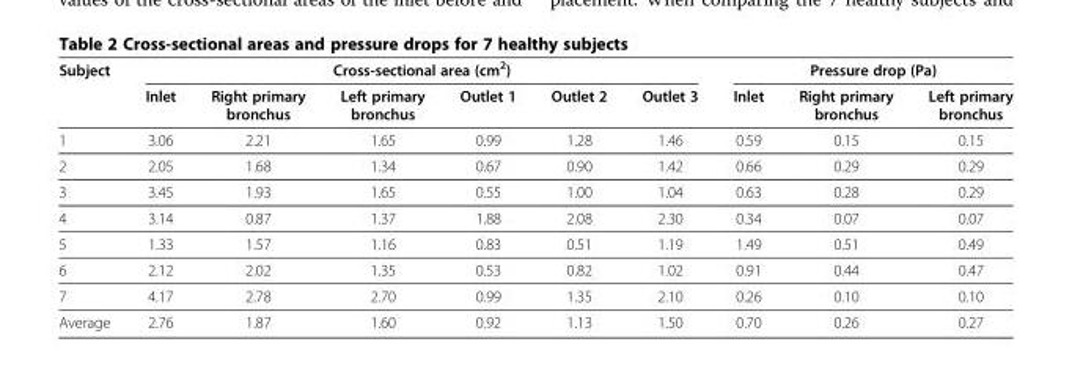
<table><thead><tr><td rowspan="2">Subject</td><td colspan="6">Cross-sectional area (cm<sup>2</sup>)</td><td colspan="3">Pressure drop (Pa)</td></tr><tr><td>Inlet</td><td>Right primary bronchus</td><td>Left primary bronchus</td><td>Outlet 1</td><td>Outlet 2</td><td>Outlet 3</td><td>Inlet</td><td>Right primary bronchus</td><td>Left primary bronchus</td></tr></thead><tbody><tr><td>1</td><td>3.06</td><td>2.21</td><td>1.65</td><td>0.99</td><td>1.28</td><td>1.46</td><td>0.59</td><td>0.15</td><td>0.15</td></tr><tr><td>2</td><td>2.05</td><td>1.68</td><td>1.34</td><td>0.67</td><td>0.90</td><td>1.42</td><td>0.66</td><td>0.29</td><td>0.29</td></tr><tr><td>3</td><td>3.45</td><td>1.93</td><td>1.65</td><td>0.55</td><td>1.00</td><td>1.04</td><td>0.63</td><td>0.28</td><td>0.29</td></tr><tr><td>4</td><td>3.14</td><td>0.87</td><td>1.37</td><td>1.88</td><td>2.08</td><td>2.30</td><td>0.34</td><td>0.07</td><td>0.07</td></tr><tr><td>5</td><td>1.33</td><td>1.57</td><td>1.16</td><td>0.83</td><td>0.51</td><td>1.19</td><td>1.49</td><td>0.51</td><td>0.49</td></tr><tr><td>6</td><td>2.12</td><td>2.02</td><td>1.35</td><td>0.53</td><td>0.82</td><td>1.02</td><td>0.91</td><td>0.44</td><td>0.47</td></tr><tr><td>7</td><td>4.17</td><td>2.78</td><td>2.70</td><td>0.99</td><td>1.35</td><td>2.10</td><td>0.26</td><td>0.10</td><td>0.10</td></tr><tr><td>Average</td><td>2.76</td><td>1.87</td><td>1.60</td><td>0.92</td><td>1.13</td><td>1.50</td><td>0.70</td><td>0.26</td><td>0.27</td></tr></tbody></table>